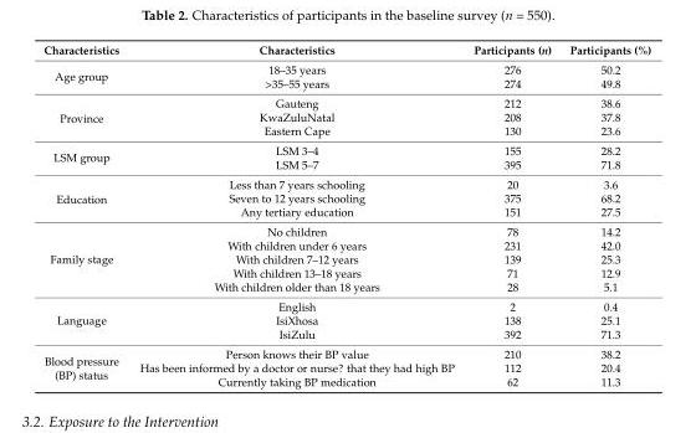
<table><thead><tr><td>Characteristics</td><td>Characteristics</td><td>Participants (n)</td><td>Participants (%)</td></tr></thead><tbody><tr><td rowspan="2">Age group</td><td>18–35 years</td><td>276</td><td>50.2</td></tr><tr><td>&gt;35–55 years</td><td>274</td><td>49.8</td></tr><tr><td rowspan="3">Province</td><td>Gauteng</td><td>212</td><td>38.6</td></tr><tr><td>KwaZuluNatal</td><td>208</td><td>37.8</td></tr><tr><td>Eastern Cape</td><td>130</td><td>23.6</td></tr><tr><td rowspan="2">LSM group</td><td>LSM 3–4</td><td>155</td><td>28.2</td></tr><tr><td>LSM 5–7</td><td>395</td><td>71.8</td></tr><tr><td rowspan="3">Education</td><td>Less than 7 years schooling</td><td>20</td><td>3.6</td></tr><tr><td>Seven to 12 years schooling</td><td>375</td><td>68.2</td></tr><tr><td>Any tertiary education</td><td>151</td><td>27.5</td></tr><tr><td rowspan="5">Family stage</td><td>No children</td><td>78</td><td>14.2</td></tr><tr><td>With children under 6 years</td><td>231</td><td>42.0</td></tr><tr><td>With children 7–12 years</td><td>139</td><td>25.3</td></tr><tr><td>With children 13–18 years</td><td>71</td><td>12.9</td></tr><tr><td>With children older than 18 years</td><td>28</td><td>5.1</td></tr><tr><td rowspan="3">Language</td><td>English</td><td>2</td><td>0.4</td></tr><tr><td>IsiXhosa</td><td>138</td><td>25.1</td></tr><tr><td>IsiZulu</td><td>392</td><td>71.3</td></tr><tr><td rowspan="3">Blood pressure (BP) status</td><td>Person knows their BP value</td><td>210</td><td>38.2</td></tr><tr><td>Has been informed by a doctor or nurse? that they had high BP</td><td>112</td><td>20.4</td></tr><tr><td>Currently taking BP medication</td><td>62</td><td>11.3</td></tr></tbody></table>